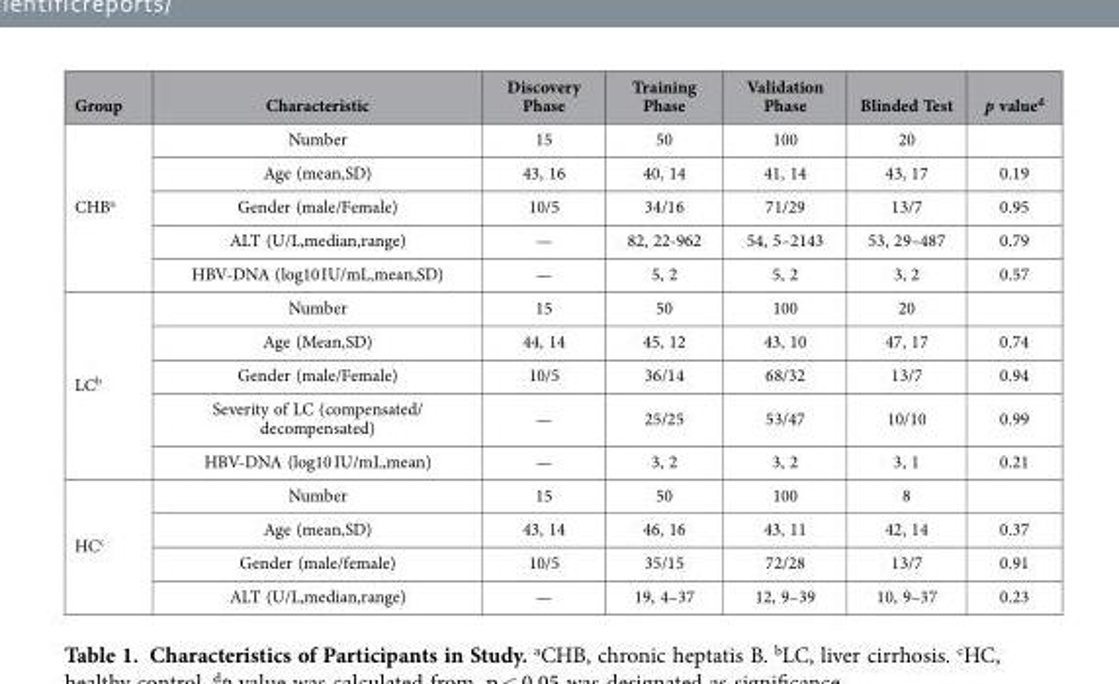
<table><thead><tr><td>Group</td><td>Characteristic</td><td>Discovery Phase</td><td>Training Phase</td><td>Validation Phase</td><td>Blinded Test</td><td>p value<sup>d</sup></td></tr></thead><tbody><tr><td rowspan="5">CHB<sup>a</sup></td><td>Number</td><td>15</td><td>50</td><td>100</td><td>20</td><td></td></tr><tr><td>Age (mean,SD)</td><td>43, 16</td><td>40, 14</td><td>41, 14</td><td>43, 17</td><td>0.19</td></tr><tr><td>Gender (male/Female)</td><td>10/5</td><td>34/16</td><td>71/29</td><td>13/7</td><td>0.95</td></tr><tr><td>ALT (U/L,median,range)</td><td>—</td><td>82, 22-962</td><td>54, 5–2143</td><td>53, 29–487</td><td>0.79</td></tr><tr><td>HBV-DNA (log10 IU/mL,mean,SD)</td><td>—</td><td>5, 2</td><td>5, 2</td><td>3, 2</td><td>0.57</td></tr><tr><td rowspan="5">LC<sup>b</sup></td><td>Number</td><td>15</td><td>50</td><td>100</td><td>20</td><td></td></tr><tr><td>Age (Mean,SD)</td><td>44, 14</td><td>45, 12</td><td>43, 10</td><td>47, 17</td><td>0.74</td></tr><tr><td>Gender (male/Female)</td><td>10/5</td><td>36/14</td><td>68/32</td><td>13/7</td><td>0.94</td></tr><tr><td>Severity of LC (compensated/ decompensated)</td><td>—</td><td>25/25</td><td>53/47</td><td>10/10</td><td>0.99</td></tr><tr><td>HBV-DNA (log10 IU/mL,mean)</td><td>—</td><td>3, 2</td><td>3, 2</td><td>3, 1</td><td>0.21</td></tr><tr><td rowspan="4">HC<sup>c</sup></td><td>Number</td><td>15</td><td>50</td><td>100</td><td>8</td><td></td></tr><tr><td>Age (mean,SD)</td><td>43, 14</td><td>46, 16</td><td>43, 11</td><td>42, 14</td><td>0.37</td></tr><tr><td>Gender (male/female)</td><td>10/5</td><td>35/15</td><td>72/28</td><td>13/7</td><td>0.91</td></tr><tr><td>ALT (U/L,median,range)</td><td>—</td><td>19, 4–37</td><td>12, 9–39</td><td>10, 9–37</td><td>0.23</td></tr></tbody></table>